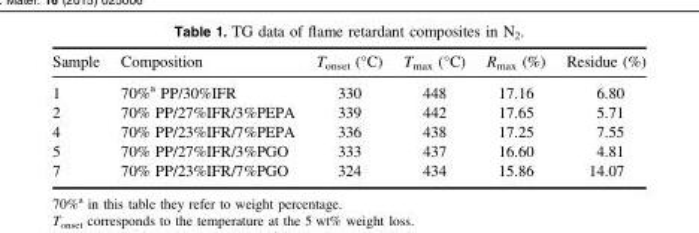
<table><thead><tr><td>Sample</td><td>Composition</td><td>T<sub>onset</sub> (°C)</td><td>T<sub>max</sub> (°C)</td><td>R<sub>max</sub> (%)</td><td>Residue (%)</td></tr></thead><tbody><tr><td>1</td><td>70%<sup>a</sup> PP/30%IFR</td><td>330</td><td>448</td><td>17.16</td><td>6.80</td></tr><tr><td>2</td><td>70% PP/27%IFR/3%PEPA</td><td>339</td><td>442</td><td>17.65</td><td>5.71</td></tr><tr><td>4</td><td>70% PP/23%IFR/7%PEPA</td><td>336</td><td>438</td><td>17.25</td><td>7.55</td></tr><tr><td>5</td><td>70% PP/27%IFR/3%PGO</td><td>333</td><td>437</td><td>16.60</td><td>4.81</td></tr><tr><td>7</td><td>70% PP/23%IFR/7%PGO</td><td>324</td><td>434</td><td>15.86</td><td>14.07</td></tr></tbody></table>